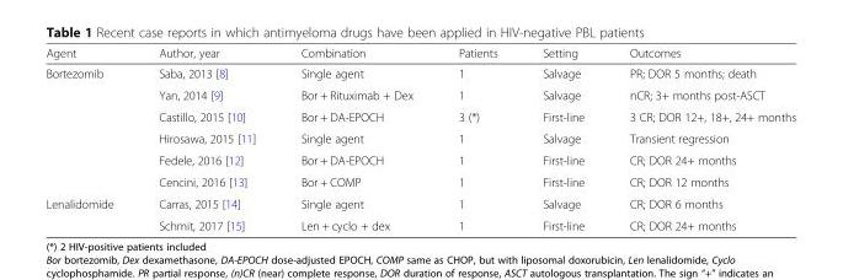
<table><thead><tr><td>Agent</td><td>Author, year</td><td>Combination</td><td>Patients</td><td>Setting</td><td>Outcomes</td></tr></thead><tbody><tr><td rowspan="6">Bortezomib</td><td>Saba, 2013 [8]</td><td>Single agent</td><td>1</td><td>Salvage</td><td>PR; DOR 5 months; death</td></tr><tr><td>Yan, 2014 [9]</td><td>Bor + Rituximab + Dex</td><td>1</td><td>Salvage</td><td>nCR; 3+ months post-ASCT</td></tr><tr><td>Castillo, 2015 [10]</td><td>Bor + DA-EPOCH</td><td>3 (*)</td><td>First-line</td><td>3 CR; DOR 12+, 18+, 24+ months</td></tr><tr><td>Hirosawa, 2015 [11]</td><td>Single agent</td><td>1</td><td>Salvage</td><td>Transient regression</td></tr><tr><td>Fedele, 2016 [12]</td><td>Bor + DA-EPOCH</td><td>1</td><td>First-line</td><td>CR; DOR 24+ months</td></tr><tr><td>Cencini, 2016 [13]</td><td>Bor + COMP</td><td>1</td><td>First-line</td><td>CR; DOR 12 months</td></tr><tr><td rowspan="2">Lenalidomide</td><td>Carras, 2015 [14]</td><td>Single agent</td><td>1</td><td>Salvage</td><td>CR; DOR 6 months</td></tr><tr><td>Schmit, 2017 [15]</td><td>Len + cyclo + dex</td><td>1</td><td>First-line</td><td>CR; DOR 24+ months</td></tr></tbody></table>